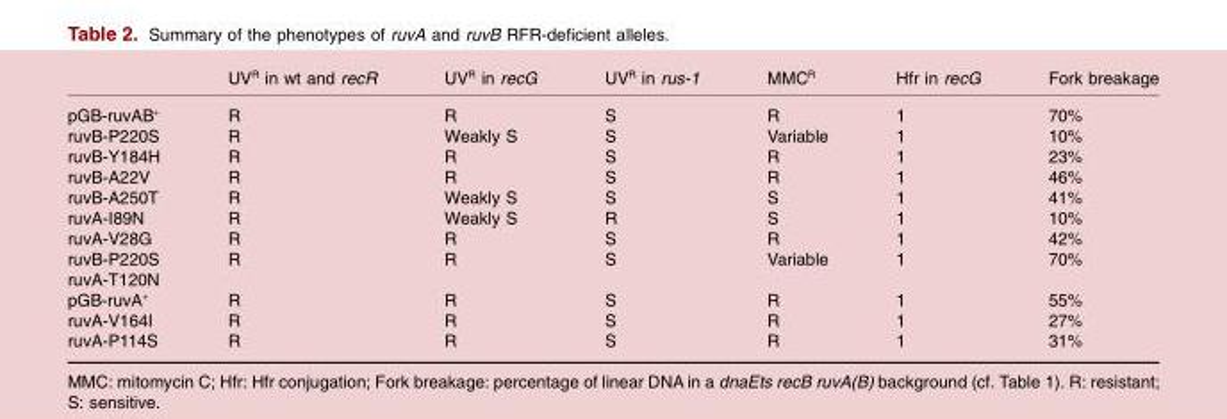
<table><thead><tr><td></td><td>UV<sup>R</sup> in wt and recR</td><td>UV<sup>R</sup> in recG</td><td>UV<sup>R</sup> in rus-1</td><td>MMC<sup>R</sup></td><td>Hfr in recG</td><td>Fork breakage</td></tr></thead><tbody><tr><td>pGB-ruvAB<sup>+</sup></td><td>R</td><td>R</td><td>S</td><td>R</td><td>1</td><td>70%</td></tr><tr><td>ruvB-P220S</td><td>R</td><td>Weakly S</td><td>S</td><td>Variable</td><td>1</td><td>10%</td></tr><tr><td>ruvB-Y184H</td><td>R</td><td>R</td><td>S</td><td>R</td><td>1</td><td>23%</td></tr><tr><td>ruvB-A22V</td><td>R</td><td>R</td><td>S</td><td>R</td><td>1</td><td>46%</td></tr><tr><td>ruvB-A250T</td><td>R</td><td>Weakly S</td><td>S</td><td>S</td><td>1</td><td>41%</td></tr><tr><td>ruvA-I89N</td><td>R</td><td>Weakly S</td><td>R</td><td>S</td><td>1</td><td>10%</td></tr><tr><td>ruvA-V28G</td><td>R</td><td>R</td><td>S</td><td>R</td><td>1</td><td>42%</td></tr><tr><td>ruvB-P220S ruvA-T120N</td><td>R</td><td>R</td><td>S</td><td>Variable</td><td>1</td><td>70%</td></tr><tr><td>pGB-ruvA<sup>+</sup></td><td>R</td><td>R</td><td>S</td><td>R</td><td>1</td><td>55%</td></tr><tr><td>ruvA-V164I</td><td>R</td><td>R</td><td>S</td><td>R</td><td>1</td><td>27%</td></tr><tr><td>ruvA-P114S</td><td>R</td><td>R</td><td>S</td><td>R</td><td>1</td><td>31%</td></tr></tbody></table>